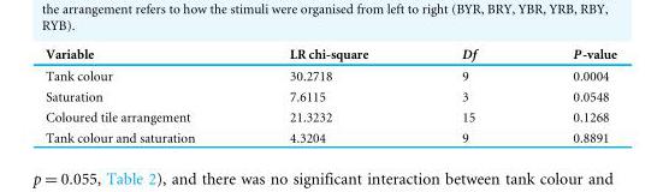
<table><thead><tr><td>Variable</td><td>LR chi-square</td><td>Df</td><td>P-value</td></tr></thead><tbody><tr><td>Tank colour</td><td>30.2718</td><td>9</td><td>0.0004</td></tr><tr><td>Saturation</td><td>7.6115</td><td>3</td><td>0.0548</td></tr><tr><td>Coloured tile arrangement</td><td>21.3232</td><td>15</td><td>0.1268</td></tr><tr><td>Tank colour and saturation</td><td>4.3204</td><td>9</td><td>0.8891</td></tr></tbody></table>